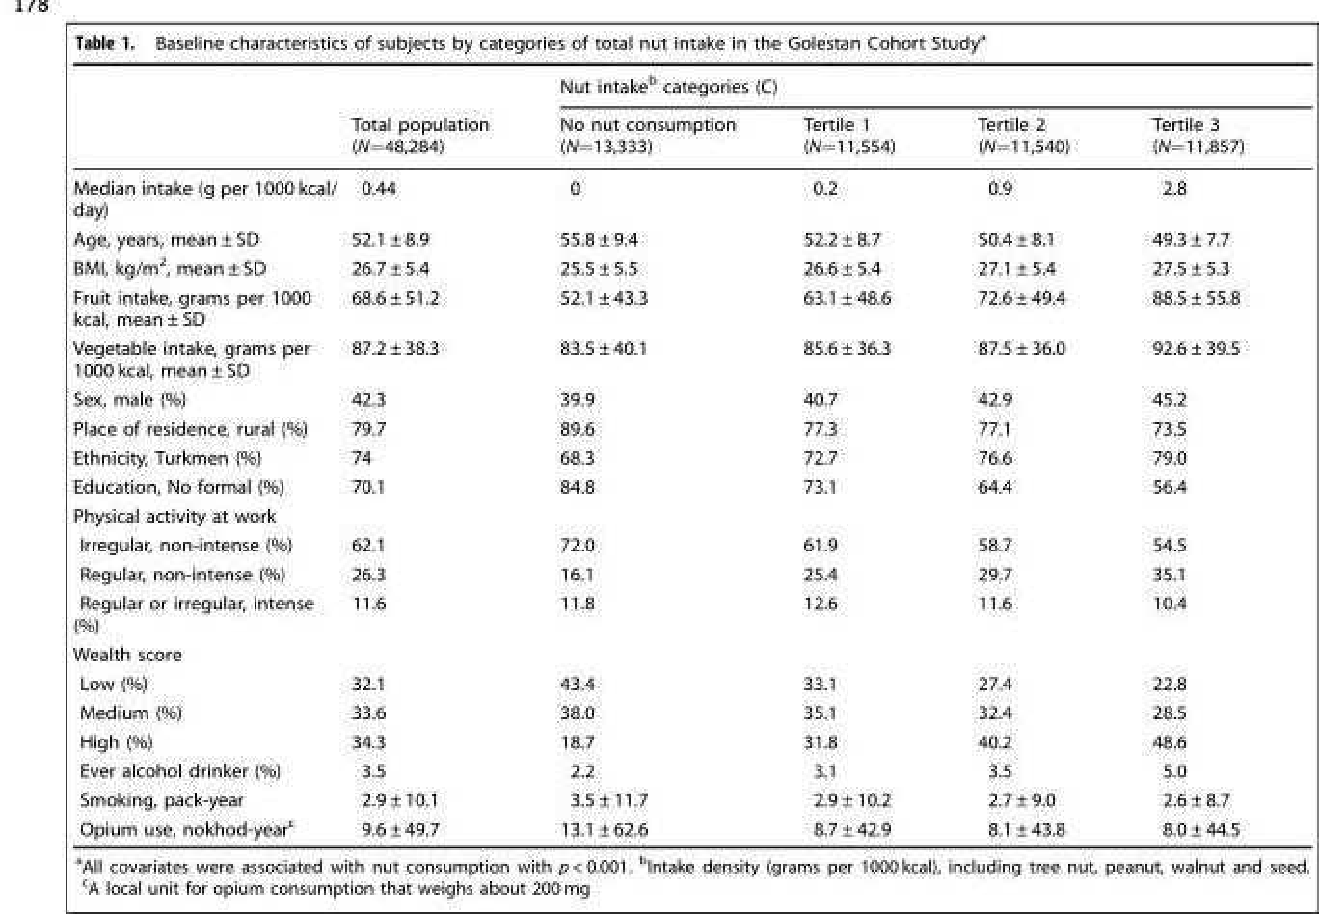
<table><thead><tr><td rowspan="2"></td><td rowspan="2">Total population (N=48,284)</td><td colspan="4">Nut intake<sup>b</sup> categories (C)</td></tr><tr><td>No nut consumption (N=13,333)</td><td>Tertile 1 (N=11,554)</td><td>Tertile 2 (N=11,540)</td><td>Tertile 3 (N=11,857)</td></tr></thead><tbody><tr><td>Median intake (g per 1000 kcal/ day)</td><td>0.44</td><td>0</td><td>0.2</td><td>0.9</td><td>2.8</td></tr><tr><td>Age, years, mean ± SD</td><td>52.1 ± 8.9</td><td>55.8 ± 9.4</td><td>52.2 ± 8.7</td><td>50.4 ± 8.1</td><td>49.3 ± 7.7</td></tr><tr><td>BMI, kg/m<sup>2</sup>, mean ± SD</td><td>26.7 ± 5.4</td><td>25.5 ± 5.5</td><td>26.6 ± 5.4</td><td>27.1 ± 5.4</td><td>27.5 ± 5.3</td></tr><tr><td>Fruit intake, grams per 1000 kcal, mean ± SD</td><td>68.6 ± 51.2</td><td>52.1 ± 43.3</td><td>63.1 ± 48.6</td><td>72.6 ± 49.4</td><td>88.5 ± 55.8</td></tr><tr><td>Vegetable intake, grams per 1000 kcal, mean ± SD</td><td>87.2 ± 38.3</td><td>83.5 ± 40.1</td><td>85.6 ± 36.3</td><td>87.5 ± 36.0</td><td>92.6 ± 39.5</td></tr><tr><td>Sex, male (%)</td><td>42.3</td><td>39.9</td><td>40.7</td><td>42.9</td><td>45.2</td></tr><tr><td>Place of residence, rural (%)</td><td>79.7</td><td>89.6</td><td>77.3</td><td>77.1</td><td>73.5</td></tr><tr><td>Ethnicity, Turkmen (%)</td><td>74</td><td>68.3</td><td>72.7</td><td>76.6</td><td>79.0</td></tr><tr><td>Education, No formal (%)</td><td>70.1</td><td>84.8</td><td>73.1</td><td>64.4</td><td>56.4</td></tr><tr><td colspan="6">Physical activity at work</td></tr><tr><td>Irregular, non-intense (%)</td><td>62.1</td><td>72.0</td><td>61.9</td><td>58.7</td><td>54.5</td></tr><tr><td>Regular, non-intense (%)</td><td>26.3</td><td>16.1</td><td>25.4</td><td>29.7</td><td>35.1</td></tr><tr><td>Regular or irregular, intense (%)</td><td>11.6</td><td>11.8</td><td>12.6</td><td>11.6</td><td>10.4</td></tr><tr><td colspan="6">Wealth score</td></tr><tr><td>Low (%)</td><td>32.1</td><td>43.4</td><td>33.1</td><td>27.4</td><td>22.8</td></tr><tr><td>Medium (%)</td><td>33.6</td><td>38.0</td><td>35.1</td><td>32.4</td><td>28.5</td></tr><tr><td>High (%)</td><td>34.3</td><td>18.7</td><td>31.8</td><td>40.2</td><td>48.6</td></tr><tr><td>Ever alcohol drinker (%)</td><td>3.5</td><td>2.2</td><td>3.1</td><td>3.5</td><td>5.0</td></tr><tr><td>Smoking, pack-year</td><td>2.9 ± 10.1</td><td>3.5 ± 11.7</td><td>2.9 ± 10.2</td><td>2.7 ± 9.0</td><td>2.6 ± 8.7</td></tr><tr><td>Opium use, nokhod-year<sup>c</sup></td><td>9.6 ± 49.7</td><td>13.1 ± 62.6</td><td>8.7 ± 42.9</td><td>8.1 ± 43.8</td><td>8.0 ± 44.5</td></tr></tbody></table>